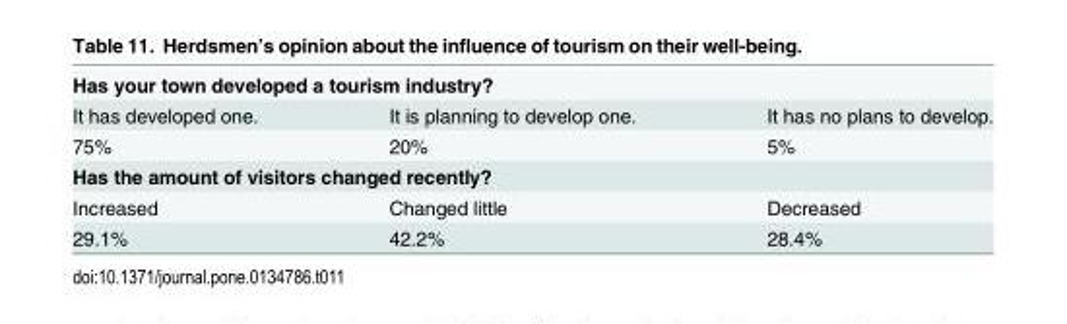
<table><tbody><tr><td colspan="3">Has your town developed a tourism industry?</td></tr><tr><td>It has developed one.</td><td>It is planning to develop one.</td><td>It has no plans to develop.</td></tr><tr><td>75%</td><td>20%</td><td>5%</td></tr><tr><td colspan="3">Has the amount of visitors changed recently?</td></tr><tr><td>Increased</td><td>Changed little</td><td>Decreased</td></tr><tr><td>29.1%</td><td>42.2%</td><td>28.4%</td></tr></tbody></table>